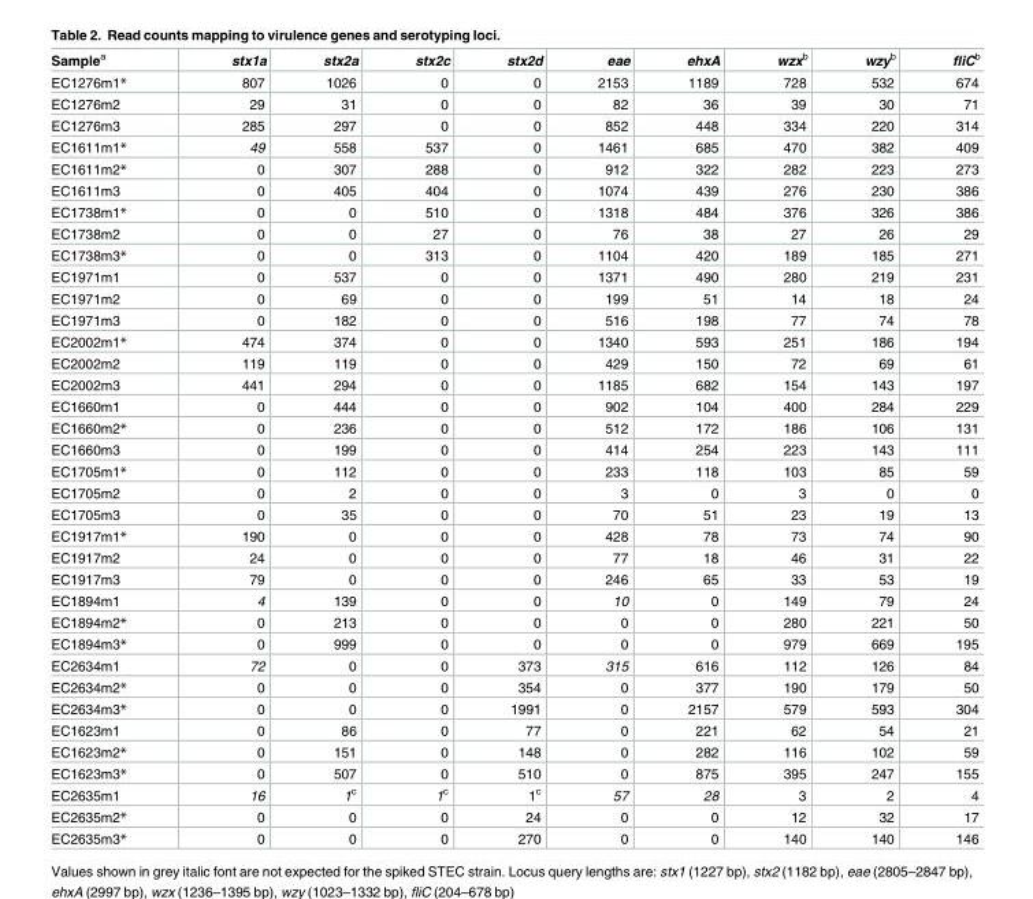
<table><thead><tr><td>Sample<sup>a</sup></td><td>stx1a</td><td>stx2a</td><td>stx2c</td><td>stx2d</td><td>eae</td><td>ehxA</td><td>wzx<sup>b</sup></td><td>wzy<sup>b</sup></td><td>fliC<sup>b</sup></td></tr></thead><tbody><tr><td>EC1276m1*</td><td>807</td><td>1026</td><td>0</td><td>0</td><td>2153</td><td>1189</td><td>728</td><td>532</td><td>674</td></tr><tr><td>EC1276m2</td><td>29</td><td>31</td><td>0</td><td>0</td><td>82</td><td>36</td><td>39</td><td>30</td><td>71</td></tr><tr><td>EC1276m3</td><td>285</td><td>297</td><td>0</td><td>0</td><td>852</td><td>448</td><td>334</td><td>220</td><td>314</td></tr><tr><td>EC1611m1*</td><td>49</td><td>558</td><td>537</td><td>0</td><td>1461</td><td>685</td><td>470</td><td>382</td><td>409</td></tr><tr><td>EC1611m2*</td><td>0</td><td>307</td><td>288</td><td>0</td><td>912</td><td>322</td><td>282</td><td>223</td><td>273</td></tr><tr><td>EC1611m3</td><td>0</td><td>405</td><td>404</td><td>0</td><td>1074</td><td>439</td><td>276</td><td>230</td><td>386</td></tr><tr><td>EC1738m1*</td><td>0</td><td>0</td><td>510</td><td>0</td><td>1318</td><td>484</td><td>376</td><td>326</td><td>386</td></tr><tr><td>EC1738m2</td><td>0</td><td>0</td><td>27</td><td>0</td><td>76</td><td>38</td><td>27</td><td>26</td><td>29</td></tr><tr><td>EC1738m3*</td><td>0</td><td>0</td><td>313</td><td>0</td><td>1104</td><td>420</td><td>189</td><td>185</td><td>271</td></tr><tr><td>EC1971m1</td><td>0</td><td>537</td><td>0</td><td>0</td><td>1371</td><td>490</td><td>280</td><td>219</td><td>231</td></tr><tr><td>EC1971m2</td><td>0</td><td>69</td><td>0</td><td>0</td><td>199</td><td>51</td><td>14</td><td>18</td><td>24</td></tr><tr><td>EC1971m3</td><td>0</td><td>182</td><td>0</td><td>0</td><td>516</td><td>198</td><td>77</td><td>74</td><td>78</td></tr><tr><td>EC2002m1*</td><td>474</td><td>374</td><td>0</td><td>0</td><td>1340</td><td>593</td><td>251</td><td>186</td><td>194</td></tr><tr><td>EC2002m2</td><td>119</td><td>119</td><td>0</td><td>0</td><td>429</td><td>150</td><td>72</td><td>69</td><td>61</td></tr><tr><td>EC2002m3</td><td>441</td><td>294</td><td>0</td><td>0</td><td>1185</td><td>682</td><td>154</td><td>143</td><td>197</td></tr><tr><td>EC1660m1</td><td>0</td><td>444</td><td>0</td><td>0</td><td>902</td><td>104</td><td>400</td><td>284</td><td>229</td></tr><tr><td>EC1660m2*</td><td>0</td><td>236</td><td>0</td><td>0</td><td>512</td><td>172</td><td>186</td><td>106</td><td>131</td></tr><tr><td>EC1660m3</td><td>0</td><td>199</td><td>0</td><td>0</td><td>414</td><td>254</td><td>223</td><td>143</td><td>111</td></tr><tr><td>EC1705m1*</td><td>0</td><td>112</td><td>0</td><td>0</td><td>233</td><td>118</td><td>103</td><td>85</td><td>59</td></tr><tr><td>EC1705m2</td><td>0</td><td>2</td><td>0</td><td>0</td><td>3</td><td>0</td><td>3</td><td>0</td><td>0</td></tr><tr><td>EC1705m3</td><td>0</td><td>35</td><td>0</td><td>0</td><td>70</td><td>51</td><td>23</td><td>19</td><td>13</td></tr><tr><td>EC1917m1*</td><td>190</td><td>0</td><td>0</td><td>0</td><td>428</td><td>78</td><td>73</td><td>74</td><td>90</td></tr><tr><td>EC1917m2</td><td>24</td><td>0</td><td>0</td><td>0</td><td>77</td><td>18</td><td>46</td><td>31</td><td>22</td></tr><tr><td>EC1917m3</td><td>79</td><td>0</td><td>0</td><td>0</td><td>246</td><td>65</td><td>33</td><td>53</td><td>19</td></tr><tr><td>EC1894m1</td><td>4</td><td>139</td><td>0</td><td>0</td><td>10</td><td>0</td><td>149</td><td>79</td><td>24</td></tr><tr><td>EC1894m2*</td><td>0</td><td>213</td><td>0</td><td>0</td><td>0</td><td>0</td><td>280</td><td>221</td><td>50</td></tr><tr><td>EC1894m3*</td><td>0</td><td>999</td><td>0</td><td>0</td><td>0</td><td>0</td><td>979</td><td>669</td><td>195</td></tr><tr><td>EC2634m1</td><td>72</td><td>0</td><td>0</td><td>373</td><td>315</td><td>616</td><td>112</td><td>126</td><td>84</td></tr><tr><td>EC2634m2*</td><td>0</td><td>0</td><td>0</td><td>354</td><td>0</td><td>377</td><td>190</td><td>179</td><td>50</td></tr><tr><td>EC2634m3*</td><td>0</td><td>0</td><td>0</td><td>1991</td><td>0</td><td>2157</td><td>579</td><td>593</td><td>304</td></tr><tr><td>EC1623m1</td><td>0</td><td>86</td><td>0</td><td>77</td><td>0</td><td>221</td><td>62</td><td>54</td><td>21</td></tr><tr><td>EC1623m2*</td><td>0</td><td>151</td><td>0</td><td>148</td><td>0</td><td>282</td><td>116</td><td>102</td><td>59</td></tr><tr><td>EC1623m3*</td><td>0</td><td>507</td><td>0</td><td>510</td><td>0</td><td>875</td><td>395</td><td>247</td><td>155</td></tr><tr><td>EC2635m1</td><td>16</td><td>1<sup>c</sup></td><td>1<sup>c</sup></td><td>1<sup>c</sup></td><td>57</td><td>28</td><td>3</td><td>2</td><td>4</td></tr><tr><td>EC2635m2*</td><td>0</td><td>0</td><td>0</td><td>24</td><td>0</td><td>0</td><td>12</td><td>32</td><td>17</td></tr><tr><td>EC2635m3*</td><td>0</td><td>0</td><td>0</td><td>270</td><td>0</td><td>0</td><td>140</td><td>140</td><td>146</td></tr></tbody></table>